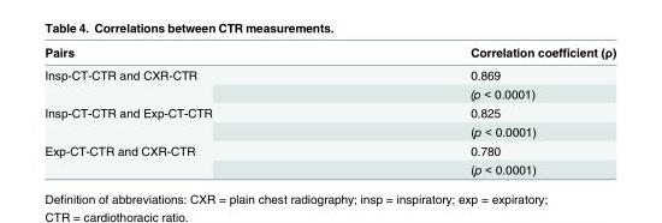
<table><thead><tr><td>Pairs</td><td>Correlation coefficient (ρ)</td></tr></thead><tbody><tr><td rowspan="2">Insp-CT-CTR and CXR-CTR</td><td>0.869</td></tr><tr><td>(p &lt; 0.0001)</td></tr><tr><td rowspan="2">Insp-CT-CTR and Exp-CT-CTR</td><td>0.825</td></tr><tr><td>(p &lt; 0.0001)</td></tr><tr><td rowspan="2">Exp-CT-CTR and CXR-CTR</td><td>0.780</td></tr><tr><td>(p &lt; 0.0001)</td></tr></tbody></table>